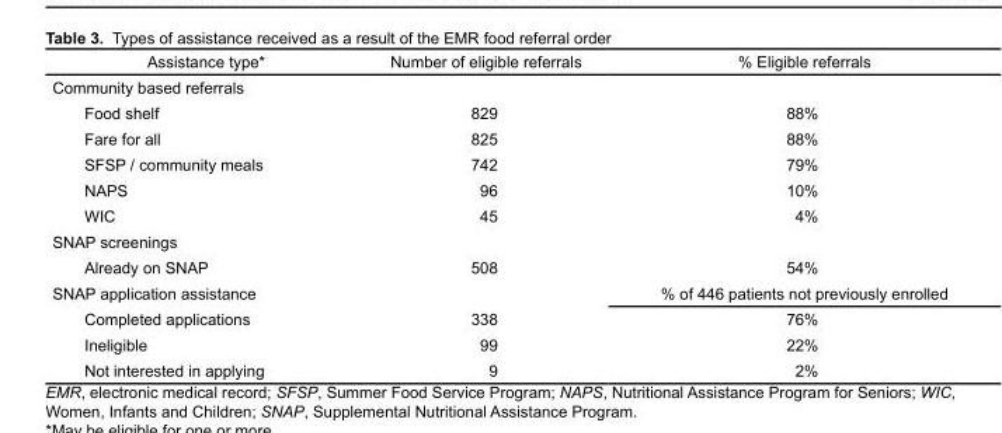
<table><thead><tr><td>Assistance type*</td><td>Number of eligible referrals</td><td>% Eligible referrals</td></tr></thead><tbody><tr><td colspan="3">Community based referrals</td></tr><tr><td>Food shelf</td><td>829</td><td>88%</td></tr><tr><td>Fare for all</td><td>825</td><td>88%</td></tr><tr><td>SFSP / community meals</td><td>742</td><td>79%</td></tr><tr><td>NAPS</td><td>96</td><td>10%</td></tr><tr><td>WIC</td><td>45</td><td>4%</td></tr><tr><td colspan="3">SNAP screenings</td></tr><tr><td>Already on SNAP</td><td>508</td><td>54%</td></tr><tr><td>SNAP application assistance</td><td></td><td>% of 446 patients not previously enrolled</td></tr><tr><td>Completed applications</td><td>338</td><td>76%</td></tr><tr><td>Ineligible</td><td>99</td><td>22%</td></tr><tr><td>Not interested in applying</td><td>9</td><td>2%</td></tr></tbody></table>